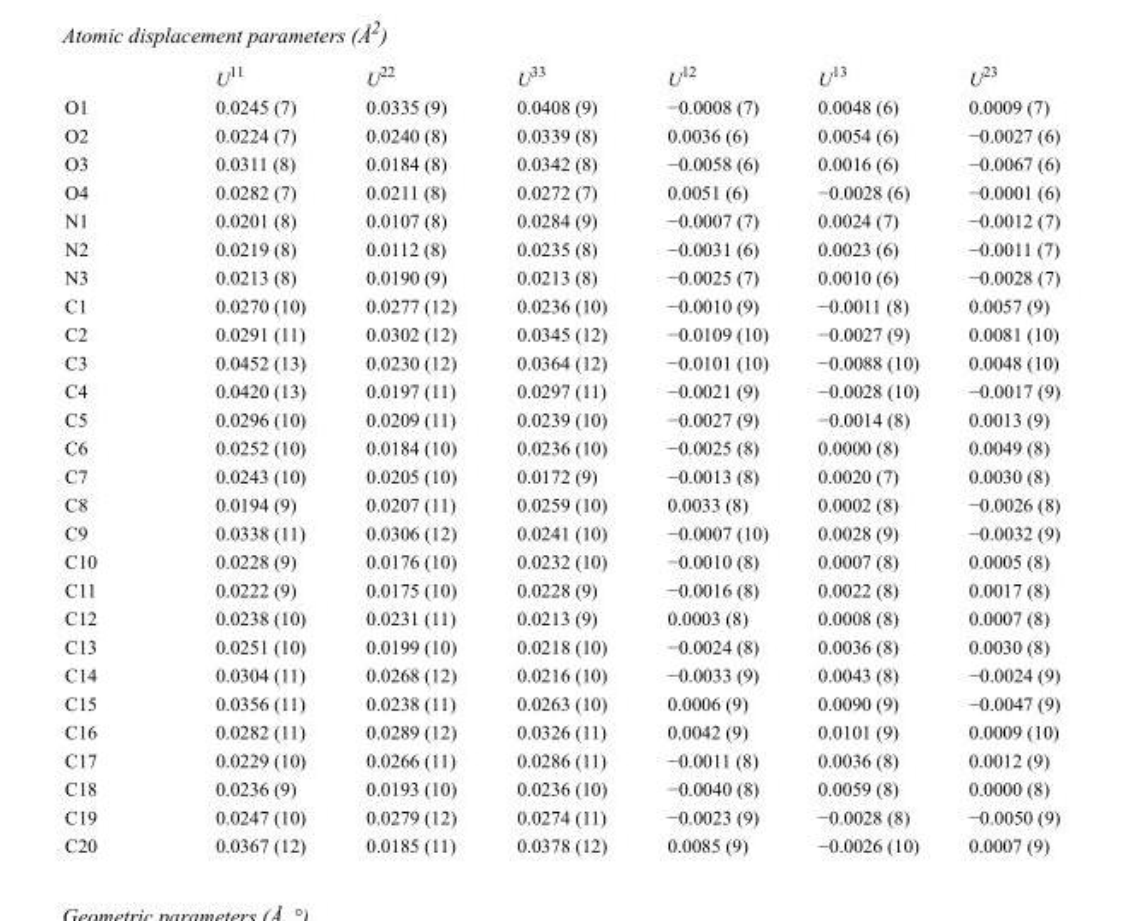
<table><thead><tr><td></td><td>U<sup>11</sup></td><td>U<sup>22</sup></td><td>U<sup>33</sup></td><td>U<sup>12</sup></td><td>U<sup>13</sup></td><td>U<sup>23</sup></td></tr></thead><tbody><tr><td>O1</td><td>0.0245 (7)</td><td>0.0335 (9)</td><td>0.0408 (9)</td><td>−0.0008 (7)</td><td>0.0048 (6)</td><td>0.0009 (7)</td></tr><tr><td>O2</td><td>0.0224 (7)</td><td>0.0240 (8)</td><td>0.0339 (8)</td><td>0.0036 (6)</td><td>0.0054 (6)</td><td>−0.0027 (6)</td></tr><tr><td>O3</td><td>0.0311 (8)</td><td>0.0184 (8)</td><td>0.0342 (8)</td><td>−0.0058 (6)</td><td>0.0016 (6)</td><td>−0.0067 (6)</td></tr><tr><td>O4</td><td>0.0282 (7)</td><td>0.0211 (8)</td><td>0.0272 (7)</td><td>0.0051 (6)</td><td>−0.0028 (6)</td><td>−0.0001 (6)</td></tr><tr><td>N1</td><td>0.0201 (8)</td><td>0.0107 (8)</td><td>0.0284 (9)</td><td>−0.0007 (7)</td><td>0.0024 (7)</td><td>−0.0012 (7)</td></tr><tr><td>N2</td><td>0.0219 (8)</td><td>0.0112 (8)</td><td>0.0235 (8)</td><td>−0.0031 (6)</td><td>0.0023 (6)</td><td>−0.0011 (7)</td></tr><tr><td>N3</td><td>0.0213 (8)</td><td>0.0190 (9)</td><td>0.0213 (8)</td><td>−0.0025 (7)</td><td>0.0010 (6)</td><td>−0.0028 (7)</td></tr><tr><td>C1</td><td>0.0270 (10)</td><td>0.0277 (12)</td><td>0.0236 (10)</td><td>−0.0010 (9)</td><td>−0.0011 (8)</td><td>0.0057 (9)</td></tr><tr><td>C2</td><td>0.0291 (11)</td><td>0.0302 (12)</td><td>0.0345 (12)</td><td>−0.0109 (10)</td><td>−0.0027 (9)</td><td>0.0081 (10)</td></tr><tr><td>C3</td><td>0.0452 (13)</td><td>0.0230 (12)</td><td>0.0364 (12)</td><td>−0.0101 (10)</td><td>−0.0088 (10)</td><td>0.0048 (10)</td></tr><tr><td>C4</td><td>0.0420 (13)</td><td>0.0197 (11)</td><td>0.0297 (11)</td><td>−0.0021 (9)</td><td>−0.0028 (10)</td><td>−0.0017 (9)</td></tr><tr><td>C5</td><td>0.0296 (10)</td><td>0.0209 (11)</td><td>0.0239 (10)</td><td>−0.0027 (9)</td><td>−0.0014 (8)</td><td>0.0013 (9)</td></tr><tr><td>C6</td><td>0.0252 (10)</td><td>0.0184 (10)</td><td>0.0236 (10)</td><td>−0.0025 (8)</td><td>0.0000 (8)</td><td>0.0049 (8)</td></tr><tr><td>C7</td><td>0.0243 (10)</td><td>0.0205 (10)</td><td>0.0172 (9)</td><td>−0.0013 (8)</td><td>0.0020 (7)</td><td>0.0030 (8)</td></tr><tr><td>C8</td><td>0.0194 (9)</td><td>0.0207 (11)</td><td>0.0259 (10)</td><td>0.0033 (8)</td><td>0.0002 (8)</td><td>−0.0026 (8)</td></tr><tr><td>C9</td><td>0.0338 (11)</td><td>0.0306 (12)</td><td>0.0241 (10)</td><td>−0.0007 (10)</td><td>0.0028 (9)</td><td>−0.0032 (9)</td></tr><tr><td>C10</td><td>0.0228 (9)</td><td>0.0176 (10)</td><td>0.0232 (10)</td><td>−0.0010 (8)</td><td>0.0007 (8)</td><td>0.0005 (8)</td></tr><tr><td>C11</td><td>0.0222 (9)</td><td>0.0175 (10)</td><td>0.0228 (9)</td><td>−0.0016 (8)</td><td>0.0022 (8)</td><td>0.0017 (8)</td></tr><tr><td>C12</td><td>0.0238 (10)</td><td>0.0231 (11)</td><td>0.0213 (9)</td><td>0.0003 (8)</td><td>0.0008 (8)</td><td>0.0007 (8)</td></tr><tr><td>C13</td><td>0.0251 (10)</td><td>0.0199 (10)</td><td>0.0218 (10)</td><td>−0.0024 (8)</td><td>0.0036 (8)</td><td>0.0030 (8)</td></tr><tr><td>C14</td><td>0.0304 (11)</td><td>0.0268 (12)</td><td>0.0216 (10)</td><td>−0.0033 (9)</td><td>0.0043 (8)</td><td>−0.0024 (9)</td></tr><tr><td>C15</td><td>0.0356 (11)</td><td>0.0238 (11)</td><td>0.0263 (10)</td><td>0.0006 (9)</td><td>0.0090 (9)</td><td>−0.0047 (9)</td></tr><tr><td>C16</td><td>0.0282 (11)</td><td>0.0289 (12)</td><td>0.0326 (11)</td><td>0.0042 (9)</td><td>0.0101 (9)</td><td>0.0009 (10)</td></tr><tr><td>C17</td><td>0.0229 (10)</td><td>0.0266 (11)</td><td>0.0286 (11)</td><td>−0.0011 (8)</td><td>0.0036 (8)</td><td>0.0012 (9)</td></tr><tr><td>C18</td><td>0.0236 (9)</td><td>0.0193 (10)</td><td>0.0236 (10)</td><td>−0.0040 (8)</td><td>0.0059 (8)</td><td>0.0000 (8)</td></tr><tr><td>C19</td><td>0.0247 (10)</td><td>0.0279 (12)</td><td>0.0274 (11)</td><td>−0.0023 (9)</td><td>−0.0028 (8)</td><td>−0.0050 (9)</td></tr><tr><td>C20</td><td>0.0367 (12)</td><td>0.0185 (11)</td><td>0.0378 (12)</td><td>0.0085 (9)</td><td>−0.0026 (10)</td><td>0.0007 (9)</td></tr></tbody></table>